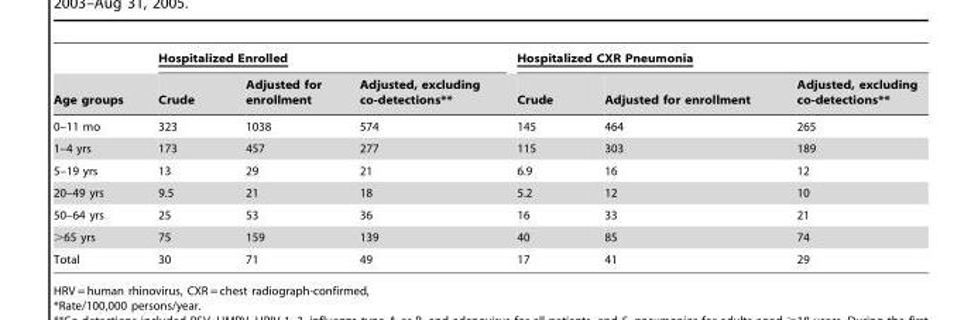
<table><thead><tr><td rowspan="2">Age groups</td><td colspan="3">Hospitalized Enrolled</td><td colspan="3">Hospitalized CXR Pneumonia</td></tr><tr><td>Crude</td><td>Adjusted for enrollment</td><td>Adjusted, excluding co-detections**</td><td>Crude</td><td>Adjusted for enrollment</td><td>Adjusted, excluding co-detections**</td></tr></thead><tbody><tr><td>0–11 mo</td><td>323</td><td>1038</td><td>574</td><td>145</td><td>464</td><td>265</td></tr><tr><td>1–4 yrs</td><td>173</td><td>457</td><td>277</td><td>115</td><td>303</td><td>189</td></tr><tr><td>5–19 yrs</td><td>13</td><td>29</td><td>21</td><td>6.9</td><td>16</td><td>12</td></tr><tr><td>20–49 yrs</td><td>9.5</td><td>21</td><td>18</td><td>5.2</td><td>12</td><td>10</td></tr><tr><td>50–64 yrs</td><td>25</td><td>53</td><td>36</td><td>16</td><td>33</td><td>21</td></tr><tr><td>&gt;65 yrs</td><td>75</td><td>159</td><td>139</td><td>40</td><td>85</td><td>74</td></tr><tr><td>Total</td><td>30</td><td>71</td><td>49</td><td>17</td><td>41</td><td>29</td></tr></tbody></table>